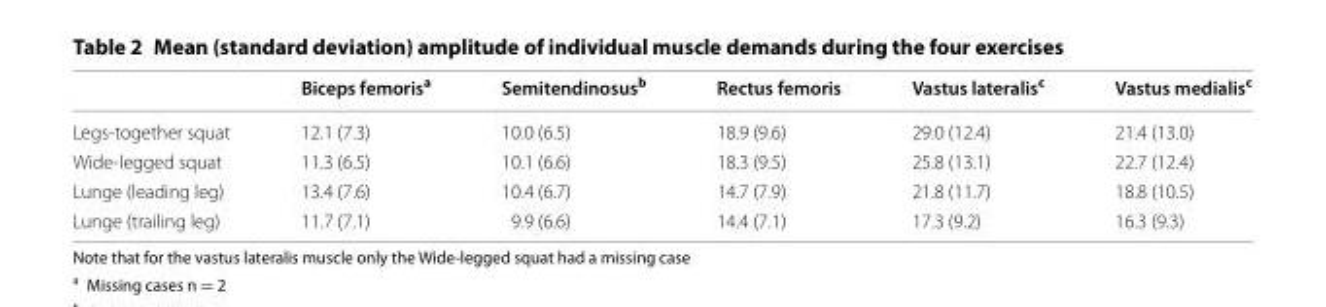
<table><thead><tr><td></td><td>Biceps femoris<sup>a</sup></td><td>Semitendinosus<sup>b</sup></td><td>Rectus femoris</td><td>Vastus lateralis<sup>c</sup></td><td>Vastus medialis<sup>c</sup></td></tr></thead><tbody><tr><td>Legs-together squat</td><td>12.1 (7.3)</td><td>10.0 (6.5)</td><td>18.9 (9.6)</td><td>29.0 (12.4)</td><td>21.4 (13.0)</td></tr><tr><td>Wide-legged squat</td><td>11.3 (6.5)</td><td>10.1 (6.6)</td><td>18.3 (9.5)</td><td>25.8 (13.1)</td><td>22.7 (12.4)</td></tr><tr><td>Lunge (leading leg)</td><td>13.4 (7.6)</td><td>10.4 (6.7)</td><td>14.7 (7.9)</td><td>21.8 (11.7)</td><td>18.8 (10.5)</td></tr><tr><td>Lunge (trailing leg)</td><td>11.7 (7.1)</td><td>9.9 (6.6)</td><td>14.4 (7.1)</td><td>17.3 (9.2)</td><td>16.3 (9.3)</td></tr></tbody></table>